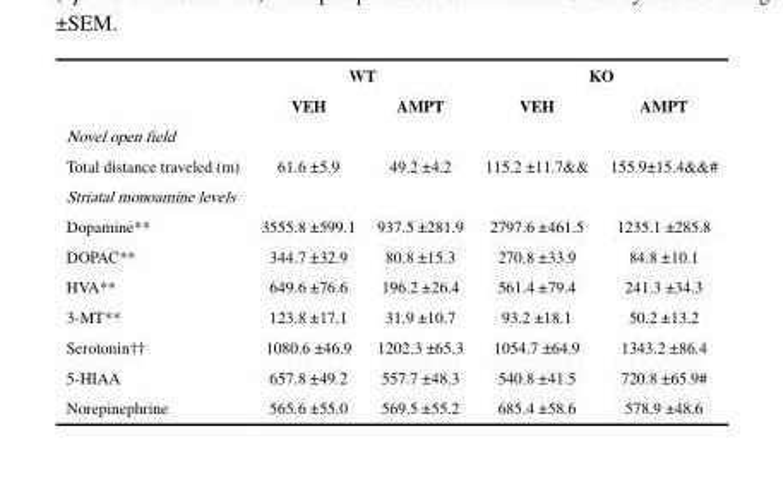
<table><thead><tr><td rowspan="2"></td><td colspan="2">WT</td><td colspan="2">KO</td></tr><tr><td>VEH</td><td>AMPT</td><td>VEH</td><td>AMPT</td></tr></thead><tbody><tr><td colspan="5">Novel open field</td></tr><tr><td>Total distance traveled (m)</td><td>61.6 ±5.9</td><td>49.2 ±4.2</td><td>115.2 ±11.7&amp;&amp;</td><td>155.9±15.4&amp;&amp;#</td></tr><tr><td colspan="5">Striatal monoamine levels</td></tr><tr><td>Dopamine**</td><td>3555.8 ±599.1</td><td>937.5 ±281.9</td><td>2797.6 ±461.5</td><td>1235.1 ±285.8</td></tr><tr><td>DOPAC**</td><td>344.7 ±32.9</td><td>80.8 ±15.3</td><td>270.8 ±33.9</td><td>84.8 ±10.1</td></tr><tr><td>HVA**</td><td>649.6 ±76.6</td><td>196.2 ±26.4</td><td>561.4 ±79.4</td><td>241.3 ±34.3</td></tr><tr><td>3-MT**</td><td>123.8 ±17.1</td><td>31.9 ±10.7</td><td>93.2 ±18.1</td><td>50.2 ±13.2</td></tr><tr><td>Serotonin††</td><td>1080.6 ±46.9</td><td>1202.3 ±65.3</td><td>1054.7 ±64.9</td><td>1343.2 ±86.4</td></tr><tr><td>5-HIAA</td><td>657.8 ±49.2</td><td>557.7 ±48.3</td><td>540.8 ±41.5</td><td>720.8 ±65.9#</td></tr><tr><td>Norepinephrine</td><td>565.6 ±55.0</td><td>569.5 ±55.2</td><td>685.4 ±58.6</td><td>578.9 ±48.6</td></tr></tbody></table>